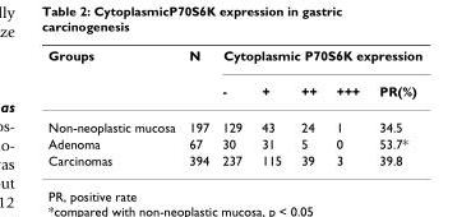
<table><thead><tr><td rowspan="2">Groups</td><td rowspan="2">N</td><td colspan="5">Cytoplasmic P70S6K expression</td></tr><tr><td>-</td><td>+</td><td>++</td><td>+++</td><td>PR(%)</td></tr></thead><tbody><tr><td>Non-neoplastic mucosa</td><td>197</td><td>129</td><td>43</td><td>24</td><td>1</td><td>34.5</td></tr><tr><td>Adenoma</td><td>67</td><td>30</td><td>31</td><td>5</td><td>0</td><td>53.7*</td></tr><tr><td>Carcinomas</td><td>394</td><td>237</td><td>115</td><td>39</td><td>3</td><td>39.8</td></tr></tbody></table>